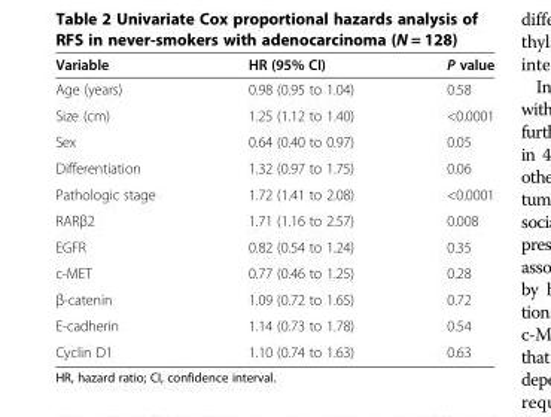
<table><thead><tr><td>Variable</td><td>HR (95% CI)</td><td>P value</td></tr></thead><tbody><tr><td>Age (years)</td><td>0.98 (0.95 to 1.04)</td><td>0.58</td></tr><tr><td>Size (cm)</td><td>1.25 (1.12 to 1.40)</td><td>&lt;0.0001</td></tr><tr><td>Sex</td><td>0.64 (0.40 to 0.97)</td><td>0.05</td></tr><tr><td>Differentiation</td><td>1.32 (0.97 to 1.75)</td><td>0.06</td></tr><tr><td>Pathologic stage</td><td>1.72 (1.41 to 2.08)</td><td>&lt;0.0001</td></tr><tr><td>RARβ2</td><td>1.71 (1.16 to 2.57)</td><td>0.008</td></tr><tr><td>EGFR</td><td>0.82 (0.54 to 1.24)</td><td>0.35</td></tr><tr><td>c-MET</td><td>0.77 (0.46 to 1.25)</td><td>0.28</td></tr><tr><td>β-catenin</td><td>1.09 (0.72 to 1.65)</td><td>0.72</td></tr><tr><td>E-cadherin</td><td>1.14 (0.73 to 1.78)</td><td>0.54</td></tr><tr><td>Cyclin D1</td><td>1.10 (0.74 to 1.63)</td><td>0.63</td></tr></tbody></table>